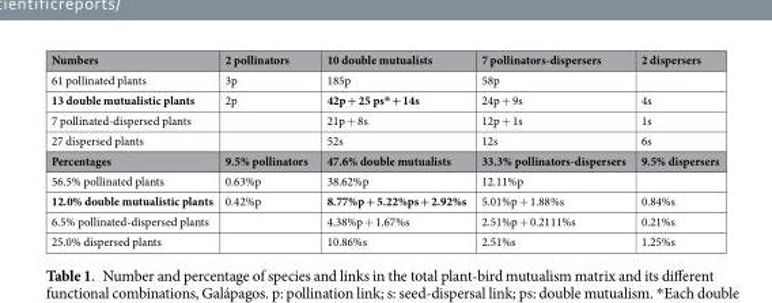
<table><thead><tr><td>Numbers</td><td>2 pollinators</td><td>10 double mutualists</td><td>7 pollinators-dispersers</td><td>2 dispersers</td></tr></thead><tbody><tr><td>61 pollinated plants</td><td>3p</td><td>185p</td><td>58p</td><td></td></tr><tr><td>13 double mutualistic plants</td><td>2p</td><td>42p + 25 ps* + 14s</td><td>24p + 9s</td><td>4s</td></tr><tr><td>7 pollinated-dispersed plants</td><td></td><td>21p + 8s</td><td>12p + 1s</td><td>1s</td></tr><tr><td>27 dispersed plants</td><td></td><td>52s</td><td>12s</td><td>6s</td></tr><tr><td>Percentages</td><td>9.5% pollinators</td><td>47.6% double mutualists</td><td>33.3% pollinators-dispersers</td><td>9.5% dispersers</td></tr><tr><td>56.5% pollinated plants</td><td>0.63%p</td><td>38.62%p</td><td>12.11%p</td><td></td></tr><tr><td>12.0% double mutualistic plants</td><td>0.42%p</td><td>8.77%p + 5.22%ps + 2.92%s</td><td>5.01%p + 1.88%s</td><td>0.84%s</td></tr><tr><td>6.5% pollinated-dispersed plants</td><td></td><td>4.38%p + 1.67%s</td><td>2.51%p + 0.2111%s</td><td>0.21%s</td></tr><tr><td>25.0% dispersed plants</td><td></td><td>10.86%s</td><td>2.51%s</td><td>1.25%s</td></tr></tbody></table>